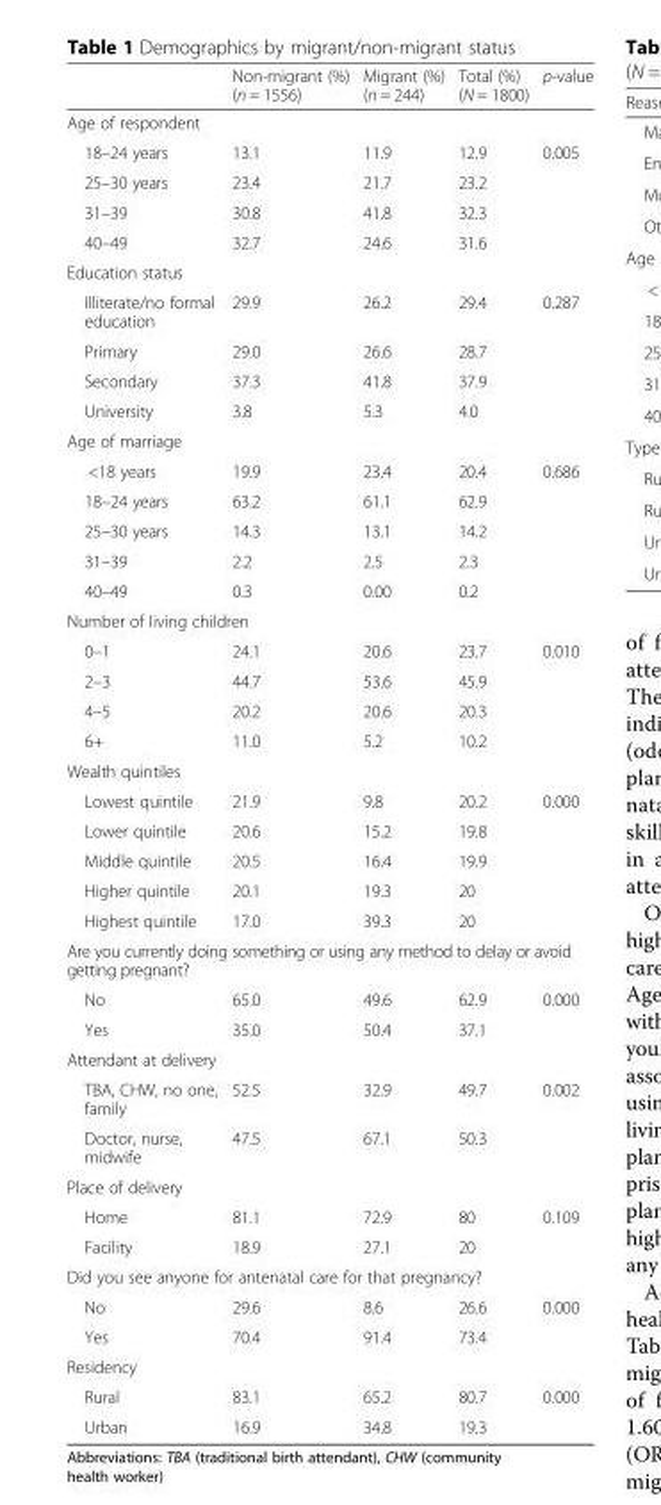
<table><thead><tr><td></td><td>Non-migrant (%) (n = 1556)</td><td>Migrant (%) (n = 244)</td><td>Total (%) (N = 1800)</td><td>p-value</td></tr></thead><tbody><tr><td colspan="5">Age of respondent</td></tr><tr><td>18–24 years</td><td>13.1</td><td>11.9</td><td>12.9</td><td>0.005</td></tr><tr><td>25–30 years</td><td>23.4</td><td>21.7</td><td>23.2</td><td></td></tr><tr><td>31–39</td><td>30.8</td><td>41.8</td><td>32.3</td><td></td></tr><tr><td>40–49</td><td>32.7</td><td>24.6</td><td>31.6</td><td></td></tr><tr><td colspan="5">Education status</td></tr><tr><td>Illiterate/no formal education</td><td>29.9</td><td>26.2</td><td>29.4</td><td>0.287</td></tr><tr><td>Primary</td><td>29.0</td><td>26.6</td><td>28.7</td><td></td></tr><tr><td>Secondary</td><td>37.3</td><td>41.8</td><td>37.9</td><td></td></tr><tr><td>University</td><td>3.8</td><td>5.3</td><td>4.0</td><td></td></tr><tr><td colspan="5">Age of marriage</td></tr><tr><td>&lt;18 years</td><td>19.9</td><td>23.4</td><td>20.4</td><td>0.686</td></tr><tr><td>18–24 years</td><td>63.2</td><td>61.1</td><td>62.9</td><td></td></tr><tr><td>25–30 years</td><td>14.3</td><td>13.1</td><td>14.2</td><td></td></tr><tr><td>31–39</td><td>2.2</td><td>2.5</td><td>2.3</td><td></td></tr><tr><td>40–49</td><td>0.3</td><td>0.00</td><td>0.2</td><td></td></tr><tr><td colspan="5">Number of living children</td></tr><tr><td>0–1</td><td>24.1</td><td>20.6</td><td>23.7</td><td>0.010</td></tr><tr><td>2–3</td><td>44.7</td><td>53.6</td><td>45.9</td><td></td></tr><tr><td>4–5</td><td>20.2</td><td>20.6</td><td>20.3</td><td></td></tr><tr><td>6+</td><td>11.0</td><td>5.2</td><td>10.2</td><td></td></tr><tr><td colspan="5">Wealth quintiles</td></tr><tr><td>Lowest quintile</td><td>21.9</td><td>9.8</td><td>20.2</td><td>0.000</td></tr><tr><td>Lower quintile</td><td>20.6</td><td>15.2</td><td>19.8</td><td></td></tr><tr><td>Middle quintile</td><td>20.5</td><td>16.4</td><td>19.9</td><td></td></tr><tr><td>Higher quintile</td><td>20.1</td><td>19.3</td><td>20</td><td></td></tr><tr><td>Highest quintile</td><td>17.0</td><td>39.3</td><td>20</td><td></td></tr><tr><td colspan="5">Are you currently doing something or using any method to delay or avoid getting pregnant?</td></tr><tr><td>No</td><td>65.0</td><td>49.6</td><td>62.9</td><td>0.000</td></tr><tr><td>Yes</td><td>35.0</td><td>50.4</td><td>37.1</td><td></td></tr><tr><td colspan="5">Attendant at delivery</td></tr><tr><td>TBA, CHW, no one, family</td><td>52.5</td><td>32.9</td><td>49.7</td><td>0.002</td></tr><tr><td>Doctor, nurse, midwife</td><td>47.5</td><td>67.1</td><td>50.3</td><td></td></tr><tr><td colspan="5">Place of delivery</td></tr><tr><td>Home</td><td>81.1</td><td>72.9</td><td>80</td><td>0.109</td></tr><tr><td>Facility</td><td>18.9</td><td>27.1</td><td>20</td><td></td></tr><tr><td colspan="5">Did you see anyone for antenatal care for that pregnancy?</td></tr><tr><td>No</td><td>29.6</td><td>8.6</td><td>26.6</td><td>0.000</td></tr><tr><td>Yes</td><td>70.4</td><td>91.4</td><td>73.4</td><td></td></tr><tr><td colspan="5">Residency</td></tr><tr><td>Rural</td><td>83.1</td><td>65.2</td><td>80.7</td><td>0.000</td></tr><tr><td>Urban</td><td>16.9</td><td>34.8</td><td>19.3</td><td></td></tr></tbody></table>